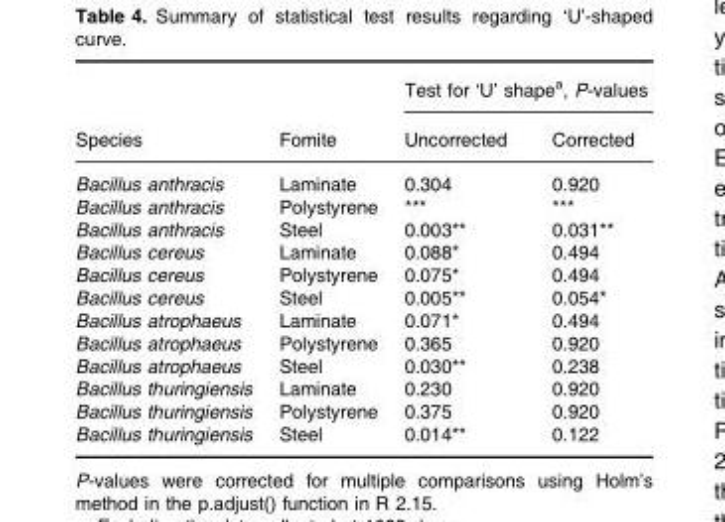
<table><thead><tr><td rowspan="2">Species</td><td rowspan="2">Fomite</td><td colspan="2">Test for ‘U’ shape<sup>a</sup>, P-values</td></tr><tr><td>Uncorrected</td><td>Corrected</td></tr></thead><tbody><tr><td>Bacillus anthracis</td><td>Laminate</td><td>0.304</td><td>0.920</td></tr><tr><td>Bacillus anthracis</td><td>Polystyrene</td><td>***</td><td>***</td></tr><tr><td>Bacillus anthracis</td><td>Steel</td><td>0.003**</td><td>0.031**</td></tr><tr><td>Bacillus cereus</td><td>Laminate</td><td>0.088*</td><td>0.494</td></tr><tr><td>Bacillus cereus</td><td>Polystyrene</td><td>0.075*</td><td>0.494</td></tr><tr><td>Bacillus cereus</td><td>Steel</td><td>0.005**</td><td>0.054*</td></tr><tr><td>Bacillus atrophaeus</td><td>Laminate</td><td>0.071*</td><td>0.494</td></tr><tr><td>Bacillus atrophaeus</td><td>Polystyrene</td><td>0.365</td><td>0.920</td></tr><tr><td>Bacillus atrophaeus</td><td>Steel</td><td>0.030**</td><td>0.238</td></tr><tr><td>Bacillus thuringiensis</td><td>Laminate</td><td>0.230</td><td>0.920</td></tr><tr><td>Bacillus thuringiensis</td><td>Polystyrene</td><td>0.375</td><td>0.920</td></tr><tr><td>Bacillus thuringiensis</td><td>Steel</td><td>0.014**</td><td>0.122</td></tr></tbody></table>